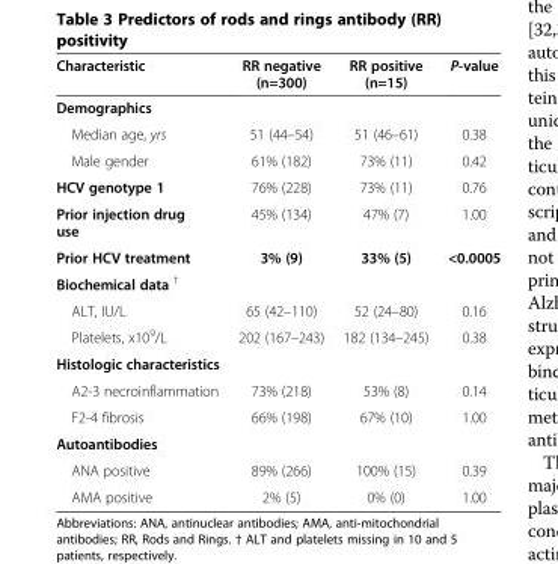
<table><thead><tr><td>Characteristic</td><td>RR negative (n=300)</td><td>RR positive (n=15)</td><td>P-value</td></tr></thead><tbody><tr><td colspan="4">Demographics</td></tr><tr><td>Median age, yrs</td><td>51 (44–54)</td><td>51 (46–61)</td><td>0.38</td></tr><tr><td>Male gender</td><td>61% (182)</td><td>73% (11)</td><td>0.42</td></tr><tr><td>HCV genotype 1</td><td>76% (228)</td><td>73% (11)</td><td>0.76</td></tr><tr><td>Prior injection drug use</td><td>45% (134)</td><td>47% (7)</td><td>1.00</td></tr><tr><td>Prior HCV treatment</td><td>3% (9)</td><td>33% (5)</td><td>&lt;0.0005</td></tr><tr><td colspan="4">Biochemical data <sup>†</sup></td></tr><tr><td>ALT, IU/L</td><td>65 (42–110)</td><td>52 (24–80)</td><td>0.16</td></tr><tr><td>Platelets, x10<sup>9</sup>/L</td><td>202 (167–243)</td><td>182 (134–245)</td><td>0.38</td></tr><tr><td colspan="4">Histologic characteristics</td></tr><tr><td>A2-3 necroinflammation</td><td>73% (218)</td><td>53% (8)</td><td>0.14</td></tr><tr><td>F2-4 fibrosis</td><td>66% (198)</td><td>67% (10)</td><td>1.00</td></tr><tr><td colspan="4">Autoantibodies</td></tr><tr><td>ANA positive</td><td>89% (266)</td><td>100% (15)</td><td>0.39</td></tr><tr><td>AMA positive</td><td>2% (5)</td><td>0% (0)</td><td>1.00</td></tr></tbody></table>